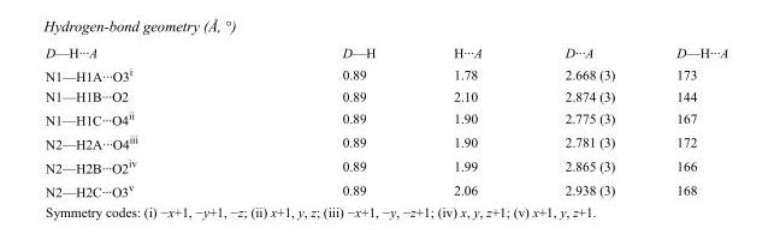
<table><tbody><tr><td>D—H···A</td><td>D—H</td><td>H···A</td><td>D···A</td><td>D—H···A</td></tr><tr><td>N1—H1A···O3<sup>i</sup></td><td>0.89</td><td>1.78</td><td>2.668 (3)</td><td>173</td></tr><tr><td>N1—H1B···O2</td><td>0.89</td><td>2.10</td><td>2.874 (3)</td><td>144</td></tr><tr><td>N1—H1C···O4<sup>ii</sup></td><td>0.89</td><td>1.90</td><td>2.775 (3)</td><td>167</td></tr><tr><td>N2—H2A···O4<sup>iii</sup></td><td>0.89</td><td>1.90</td><td>2.781 (3)</td><td>172</td></tr><tr><td>N2—H2B···O2<sup>iv</sup></td><td>0.89</td><td>1.99</td><td>2.865 (3)</td><td>166</td></tr><tr><td>N2—H2C···O3<sup>v</sup></td><td>0.89</td><td>2.06</td><td>2.938 (3)</td><td>168</td></tr></tbody></table>